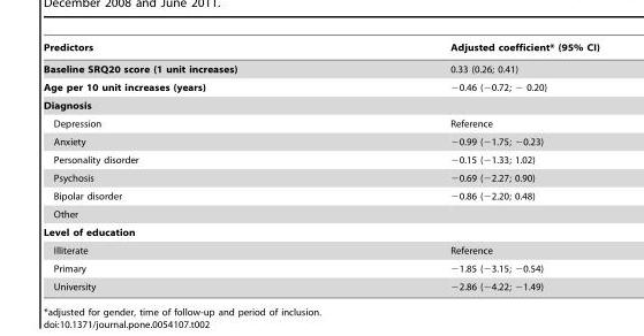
<table><thead><tr><td>Predictors</td><td>Adjusted coefficient* (95% CI)</td></tr></thead><tbody><tr><td>Baseline SRQ20 score (1 unit increases)</td><td>0.33 (0.26; 0.41)</td></tr><tr><td>Age per 10 unit increases (years)</td><td>−0.46 (−0.72; − 0.20)</td></tr><tr><td colspan="2">Diagnosis</td></tr><tr><td>Depression</td><td>Reference</td></tr><tr><td>Anxiety</td><td>−0.99 (−1.75; −0.23)</td></tr><tr><td>Personality disorder</td><td>−0.15 (−1.33; 1.02)</td></tr><tr><td>Psychosis</td><td>−0.69 (−2.27; 0.90)</td></tr><tr><td>Bipolar disorder</td><td>−0.86 (−2.20; 0.48)</td></tr><tr><td colspan="2">Other</td></tr><tr><td colspan="2">Level of education</td></tr><tr><td>Illiterate</td><td>Reference</td></tr><tr><td>Primary</td><td>−1.85 (−3.15; −0.54)</td></tr><tr><td>University</td><td>−2.86 (−4.22; −1.49)</td></tr></tbody></table>